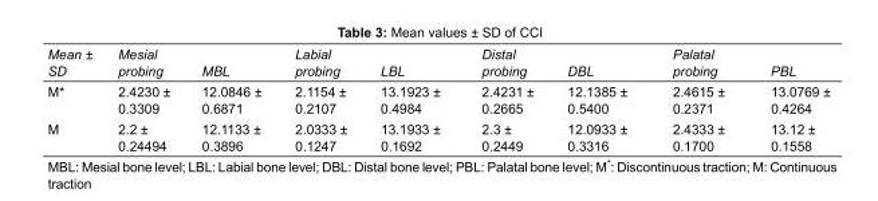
<table><tbody><tr><td>Mean ± SD</td><td>Mesial probing</td><td>MBL</td><td>Labial probing</td><td>LBL</td><td>Distal probing</td><td>DBL</td><td>Palatal probing</td><td>PBL</td></tr><tr><td rowspan="2">M*</td><td>2.4230 ±</td><td>12.0846 ±</td><td>2.1154 ±</td><td>13.1923 ±</td><td>2.4231 ±</td><td>12.1385 ±</td><td>2.4615 ±</td><td>13.0769 ±</td></tr><tr><td>0.3309</td><td>0.6871</td><td>0.2107</td><td>0.4984</td><td>0.2665</td><td>0.5400</td><td>0.2371</td><td>0.4264</td></tr><tr><td rowspan="2">M</td><td>2.2 ±</td><td>12.1133 ±</td><td>2.0333 ±</td><td>13.1933 ±</td><td>2.3 ±</td><td>12.0933 ±</td><td>2.4333 ±</td><td>13.12 ±</td></tr><tr><td>0.24494</td><td>0.3896</td><td>0.1247</td><td>0.1692</td><td>0.2449</td><td>0.3316</td><td>0.1700</td><td>0.1558</td></tr></tbody></table>